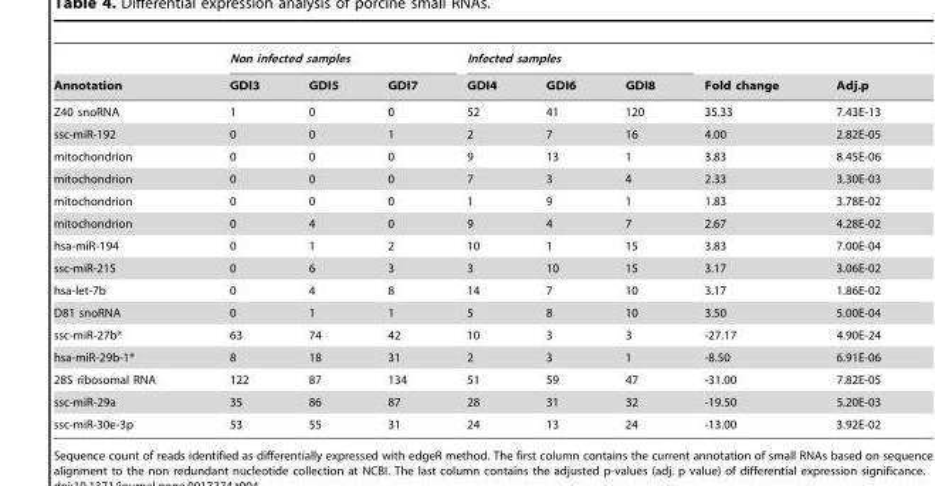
<table><thead><tr><td rowspan="2">Annotation</td><td colspan="3">Non infected samples</td><td colspan="3">Infected samples</td><td rowspan="2">Fold change</td><td rowspan="2">Adj.p</td></tr><tr><td>GDI3</td><td>GDI5</td><td>GDI7</td><td>GDI4</td><td>GDI6</td><td>GDI8</td></tr></thead><tbody><tr><td>Z40 snoRNA</td><td>1</td><td>0</td><td>0</td><td>52</td><td>41</td><td>120</td><td>35.33</td><td>7.43E-13</td></tr><tr><td>ssc-miR-192</td><td>0</td><td>0</td><td>1</td><td>2</td><td>7</td><td>16</td><td>4.00</td><td>2.82E-05</td></tr><tr><td>mitochondrion</td><td>0</td><td>0</td><td>0</td><td>9</td><td>13</td><td>1</td><td>3.83</td><td>8.45E-06</td></tr><tr><td>mitochondrion</td><td>0</td><td>0</td><td>0</td><td>7</td><td>3</td><td>4</td><td>2.33</td><td>3.30E-03</td></tr><tr><td>mitochondrion</td><td>0</td><td>0</td><td>0</td><td>1</td><td>9</td><td>1</td><td>1.83</td><td>3.78E-02</td></tr><tr><td>mitochondrion</td><td>0</td><td>4</td><td>0</td><td>9</td><td>4</td><td>7</td><td>2.67</td><td>4.28E-02</td></tr><tr><td>hsa-miR-194</td><td>0</td><td>1</td><td>2</td><td>10</td><td>1</td><td>15</td><td>3.83</td><td>7.00E-04</td></tr><tr><td>ssc-miR-215</td><td>0</td><td>6</td><td>3</td><td>3</td><td>10</td><td>15</td><td>3.17</td><td>3.06E-02</td></tr><tr><td>hsa-let-7b</td><td>0</td><td>4</td><td>8</td><td>14</td><td>7</td><td>10</td><td>3.17</td><td>1.86E-02</td></tr><tr><td>D81 snoRNA</td><td>0</td><td>1</td><td>1</td><td>5</td><td>8</td><td>10</td><td>3.50</td><td>5.00E-04</td></tr><tr><td>ssc-miR-27b*</td><td>63</td><td>74</td><td>42</td><td>10</td><td>3</td><td>3</td><td>-27.17</td><td>4.90E-24</td></tr><tr><td>hsa-miR-29b-1*</td><td>8</td><td>18</td><td>31</td><td>2</td><td>3</td><td>1</td><td>-8.50</td><td>6.91E-06</td></tr><tr><td>28S ribosomal RNA</td><td>122</td><td>87</td><td>134</td><td>51</td><td>59</td><td>47</td><td>-31.00</td><td>7.82E-05</td></tr><tr><td>ssc-miR-29a</td><td>35</td><td>86</td><td>87</td><td>28</td><td>31</td><td>32</td><td>-19.50</td><td>5.20E-03</td></tr><tr><td>ssc-miR-30e-3p</td><td>53</td><td>55</td><td>31</td><td>24</td><td>13</td><td>24</td><td>-13.00</td><td>3.92E-02</td></tr></tbody></table>